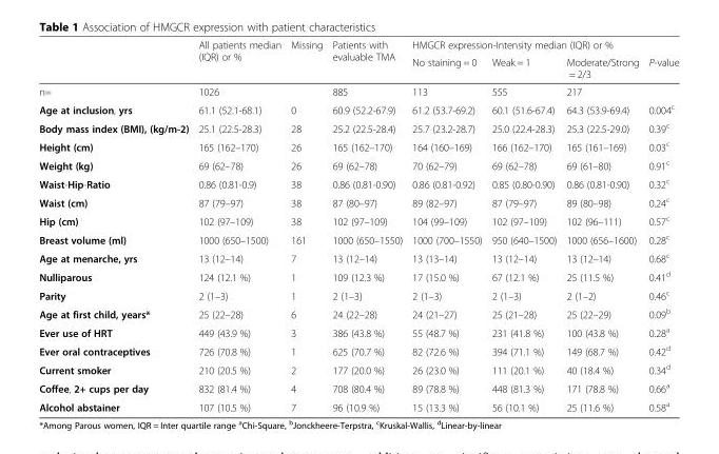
<table><thead><tr><td rowspan="2"></td><td rowspan="2">All patients median (IQR) or %</td><td rowspan="2">Missing</td><td rowspan="2">Patients with evaluable TMA</td><td colspan="3">HMGCR expression-Intensity median (IQR) or %</td><td rowspan="2">P-value</td></tr><tr><td>No staining = 0</td><td>Weak = 1</td><td>Moderate/Strong = 2/3</td></tr></thead><tbody><tr><td>n=</td><td>1026</td><td></td><td>885</td><td>113</td><td>555</td><td>217</td><td></td></tr><tr><td>Age at inclusion, yrs</td><td>61.1 (52.1-68.1)</td><td>0</td><td>60.9 (52.2-67.9)</td><td>61.2 (53.7-69.2)</td><td>60.1 (51.6-67.4)</td><td>64.3 (53.9-69.4)</td><td>0.004<sup>c</sup></td></tr><tr><td>Body mass index (BMI), (kg/m-2)</td><td>25.1 (22.5-28.3)</td><td>28</td><td>25.2 (22.5-28.4)</td><td>25.7 (23.2-28.7)</td><td>25.0 (22.4-28.3)</td><td>25.3 (22.5-29.0)</td><td>0.39<sup>c</sup></td></tr><tr><td>Height (cm)</td><td>165 (162–170)</td><td>26</td><td>165 (162–170)</td><td>164 (160–169)</td><td>166 (162–170)</td><td>165 (161–169)</td><td>0.03<sup>c</sup></td></tr><tr><td>Weight (kg)</td><td>69 (62–78)</td><td>26</td><td>69 (62–78)</td><td>70 (62–79)</td><td>69 (62–78)</td><td>69 (61–80)</td><td>0.91<sup>c</sup></td></tr><tr><td>Waist-Hip-Ratio</td><td>0.86 (0.81-0.9)</td><td>38</td><td>0.86 (0.81-0.90)</td><td>0.86 (0.81-0.92)</td><td>0.85 (0.80-0.90)</td><td>0.86 (0.81-0.90)</td><td>0.32<sup>c</sup></td></tr><tr><td>Waist (cm)</td><td>87 (79–97)</td><td>38</td><td>87 (80–97)</td><td>89 (82–97)</td><td>87 (79–97)</td><td>89 (80–98)</td><td>0.24<sup>c</sup></td></tr><tr><td>Hip (cm)</td><td>102 (97–109)</td><td>38</td><td>102 (97–109)</td><td>104 (99–109)</td><td>102 (97–109)</td><td>102 (96–111)</td><td>0.57<sup>c</sup></td></tr><tr><td>Breast volume (ml)</td><td>1000 (650–1500)</td><td>161</td><td>1000 (650–1550)</td><td>1000 (700–1550)</td><td>950 (640–1500)</td><td>1000 (656–1600)</td><td>0.28<sup>c</sup></td></tr><tr><td>Age at menarche, yrs</td><td>13 (12–14)</td><td>7</td><td>13 (12–14)</td><td>13 (13–14)</td><td>13 (12–14)</td><td>13 (12–14)</td><td>0.68<sup>c</sup></td></tr><tr><td>Nulliparous</td><td>124 (12.1 %)</td><td>1</td><td>109 (12.3 %)</td><td>17 (15.0 %)</td><td>67 (12.1 %)</td><td>25 (11.5 %)</td><td>0.41<sup>d</sup></td></tr><tr><td>Parity</td><td>2 (1–3)</td><td>1</td><td>2 (1–3)</td><td>2 (1–3)</td><td>2 (1–3)</td><td>2 (1–2)</td><td>0.46<sup>c</sup></td></tr><tr><td>Age at first child, years*</td><td>25 (22–28)</td><td>6</td><td>24 (22–28)</td><td>24 (21–27)</td><td>25 (21–28)</td><td>25 (22–29)</td><td>0.09<sup>b</sup></td></tr><tr><td>Ever use of HRT</td><td>449 (43.9 %)</td><td>3</td><td>386 (43.8 %)</td><td>55 (48.7 %)</td><td>231 (41.8 %)</td><td>100 (43.8 %)</td><td>0.28<sup>a</sup></td></tr><tr><td>Ever oral contraceptives</td><td>726 (70.8 %)</td><td>1</td><td>625 (70.7 %)</td><td>82 (72.6 %)</td><td>394 (71.1 %)</td><td>149 (68.7 %)</td><td>0.42<sup>d</sup></td></tr><tr><td>Current smoker</td><td>210 (20.5 %)</td><td>2</td><td>177 (20.0 %)</td><td>26 (23.0 %)</td><td>111 (20.1 %)</td><td>40 (18.4 %)</td><td>0.34<sup>d</sup></td></tr><tr><td>Coffee, 2+ cups per day</td><td>832 (81.4 %)</td><td>4</td><td>708 (80.4 %)</td><td>89 (78.8 %)</td><td>448 (81.3 %)</td><td>171 (78.8 %)</td><td>0.66<sup>a</sup></td></tr><tr><td>Alcohol abstainer</td><td>107 (10.5 %)</td><td>7</td><td>96 (10.9 %)</td><td>15 (13.3 %)</td><td>56 (10.1 %)</td><td>25 (11.6 %)</td><td>0.58<sup>a</sup></td></tr></tbody></table>